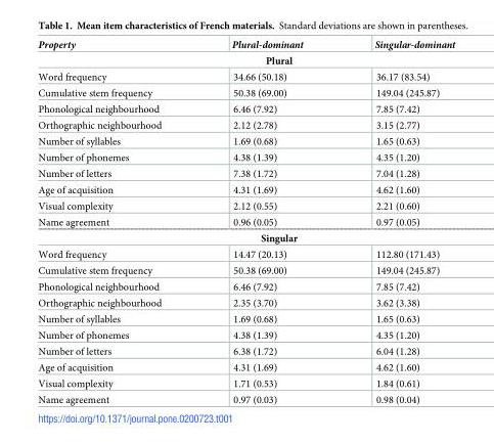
<table><thead><tr><td>Property</td><td>Plural-dominant</td><td>Singular-dominant</td></tr></thead><tbody><tr><td colspan="3">Plural</td></tr><tr><td>Word frequency</td><td>34.66 (50.18)</td><td>36.17 (83.54)</td></tr><tr><td>Cumulative stem frequency</td><td>50.38 (69.00)</td><td>149.04 (245.87)</td></tr><tr><td>Phonological neighbourhood</td><td>6.46 (7.92)</td><td>7.85 (7.42)</td></tr><tr><td>Orthographic neighbourhood</td><td>2.12 (2.78)</td><td>3.15 (2.77)</td></tr><tr><td>Number of syllables</td><td>1.69 (0.68)</td><td>1.65 (0.63)</td></tr><tr><td>Number of phonemes</td><td>4.38 (1.39)</td><td>4.35 (1.20)</td></tr><tr><td>Number of letters</td><td>7.38 (1.72)</td><td>7.04 (1.28)</td></tr><tr><td>Age of acquisition</td><td>4.31 (1.69)</td><td>4.62 (1.60)</td></tr><tr><td>Visual complexity</td><td>2.12 (0.55)</td><td>2.21 (0.60)</td></tr><tr><td>Name agreement</td><td>0.96 (0.05)</td><td>0.97 (0.05)</td></tr><tr><td colspan="3">Singular</td></tr><tr><td>Word frequency</td><td>14.47 (20.13)</td><td>112.80 (171.43)</td></tr><tr><td>Cumulative stem frequency</td><td>50.38 (69.00)</td><td>149.04 (245.87)</td></tr><tr><td>Phonological neighbourhood</td><td>6.46 (7.92)</td><td>7.85 (7.42)</td></tr><tr><td>Orthographic neighbourhood</td><td>2.35 (3.70)</td><td>3.62 (3.38)</td></tr><tr><td>Number of syllables</td><td>1.69 (0.68)</td><td>1.65 (0.63)</td></tr><tr><td>Number of phonemes</td><td>4.38 (1.39)</td><td>4.35 (1.20)</td></tr><tr><td>Number of letters</td><td>6.38 (1.72)</td><td>6.04 (1.28)</td></tr><tr><td>Age of acquisition</td><td>4.31 (1.69)</td><td>4.62 (1.60)</td></tr><tr><td>Visual complexity</td><td>1.71 (0.53)</td><td>1.84 (0.61)</td></tr><tr><td>Name agreement</td><td>0.97 (0.03)</td><td>0.98 (0.04)</td></tr></tbody></table>